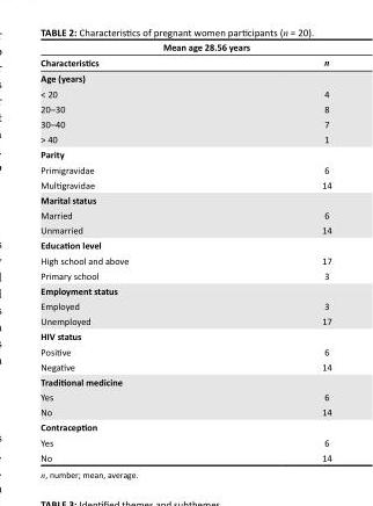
<table><thead><tr><td colspan="2">Mean age 28.56 years</td></tr><tr><td>Characteristics</td><td>n</td></tr></thead><tbody><tr><td colspan="2">Age (years)</td></tr><tr><td>&lt; 20</td><td>4</td></tr><tr><td>20–30</td><td>8</td></tr><tr><td>30–40</td><td>7</td></tr><tr><td>&gt; 40</td><td>1</td></tr><tr><td colspan="2">Parity</td></tr><tr><td>Primigravidae</td><td>6</td></tr><tr><td>Multigravidae</td><td>14</td></tr><tr><td colspan="2">Marital status</td></tr><tr><td>Married</td><td>6</td></tr><tr><td>Unmarried</td><td>14</td></tr><tr><td colspan="2">Education level</td></tr><tr><td>High school and above</td><td>17</td></tr><tr><td>Primary school</td><td>3</td></tr><tr><td colspan="2">Employment status</td></tr><tr><td>Employed</td><td>3</td></tr><tr><td>Unemployed</td><td>17</td></tr><tr><td colspan="2">HIV status</td></tr><tr><td>Positive</td><td>6</td></tr><tr><td>Negative</td><td>14</td></tr><tr><td colspan="2">Traditional medicine</td></tr><tr><td>Yes</td><td>6</td></tr><tr><td>No</td><td>14</td></tr><tr><td colspan="2">Contraception</td></tr><tr><td>Yes</td><td>6</td></tr><tr><td>No</td><td>14</td></tr></tbody></table>